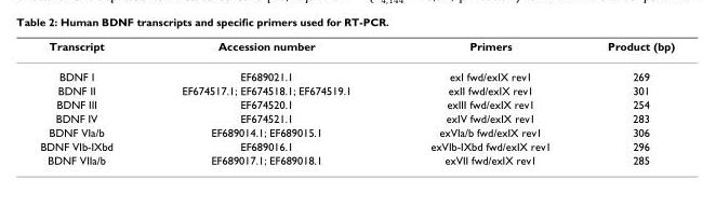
<table><thead><tr><td>Transcript</td><td>Accession number</td><td>Primers</td><td>Product (bp)</td></tr></thead><tbody><tr><td>BDNF I</td><td>EF689021.1</td><td>exI fwd/exIX rev1</td><td>269</td></tr><tr><td>BDNF II</td><td>EF674517.1; EF674518.1; EF674519.1</td><td>exII fwd/exIX rev1</td><td>301</td></tr><tr><td>BDNF III</td><td>EF674520.1</td><td>exIII fwd/exIX rev1</td><td>254</td></tr><tr><td>BDNF IV</td><td>EF674521.1</td><td>exIV fwd/exIX rev1</td><td>283</td></tr><tr><td>BDNF VIa/b</td><td>EF689014.1; EF689015.1</td><td>exVIa/b fwd/exIX rev1</td><td>306</td></tr><tr><td>BDNF VIb-IXbd</td><td>EF689016.1</td><td>exVIb-IXbd fwd/exIX rev1</td><td>296</td></tr><tr><td>BDNF VIIa/b</td><td>EF689017.1; EF689018.1</td><td>exVII fwd/exIX rev1</td><td>285</td></tr></tbody></table>